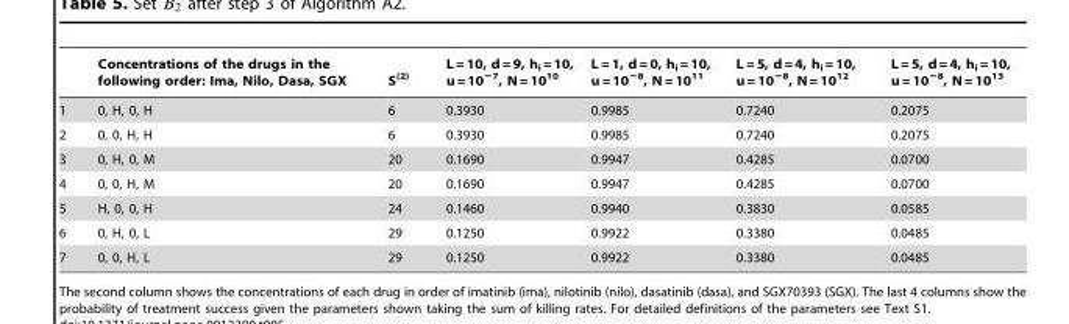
<table><thead><tr><td></td><td>Concentrations of the drugs in the following order: Ima, Nilo, Dasa, SGX</td><td>S<sup>(2)</sup></td><td>L = 10, d = 9, h<sub>i</sub> = 10, u = 10<sup>−7</sup>, N = 10<sup>10</sup></td><td>L = 1, d = 0, h<sub>i</sub> = 10, u = 10<sup>−8</sup>, N = 10<sup>11</sup></td><td>L = 5, d = 4, h<sub>i</sub> = 10, u = 10<sup>−8</sup>, N = 10<sup>12</sup></td><td>L = 5, d = 4, h<sub>i</sub> = 10, u = 10<sup>−8</sup>, N = 10<sup>13</sup></td></tr></thead><tbody><tr><td>1</td><td>0, H, 0, H</td><td>6</td><td>0.3930</td><td>0.9985</td><td>0.7240</td><td>0.2075</td></tr><tr><td>2</td><td>0, 0, H, H</td><td>6</td><td>0.3930</td><td>0.9985</td><td>0.7240</td><td>0.2075</td></tr><tr><td>3</td><td>0, H, 0, M</td><td>20</td><td>0.1690</td><td>0.9947</td><td>0.4285</td><td>0.0700</td></tr><tr><td>4</td><td>0, 0, H, M</td><td>20</td><td>0.1690</td><td>0.9947</td><td>0.4285</td><td>0.0700</td></tr><tr><td>5</td><td>H, 0, 0, H</td><td>24</td><td>0.1460</td><td>0.9940</td><td>0.3830</td><td>0.0585</td></tr><tr><td>6</td><td>0, H, 0, L</td><td>29</td><td>0.1250</td><td>0.9922</td><td>0.3380</td><td>0.0485</td></tr><tr><td>7</td><td>0, 0, H, L</td><td>29</td><td>0.1250</td><td>0.9922</td><td>0.3380</td><td>0.0485</td></tr></tbody></table>